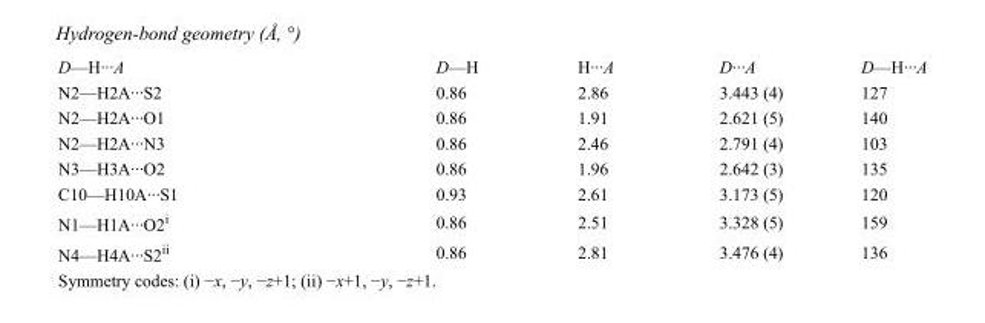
<table><tbody><tr><td>D—H···A</td><td>D—H</td><td>H···A</td><td>D···A</td><td>D—H···A</td></tr><tr><td>N2—H2A···S2</td><td>0.86</td><td>2.86</td><td>3.443 (4)</td><td>127</td></tr><tr><td>N2—H2A···O1</td><td>0.86</td><td>1.91</td><td>2.621 (5)</td><td>140</td></tr><tr><td>N2—H2A···N3</td><td>0.86</td><td>2.46</td><td>2.791 (4)</td><td>103</td></tr><tr><td>N3—H3A···O2</td><td>0.86</td><td>1.96</td><td>2.642 (3)</td><td>135</td></tr><tr><td>C10—H10A···S1</td><td>0.93</td><td>2.61</td><td>3.173 (5)</td><td>120</td></tr><tr><td>N1—H1A···O2<sup>i</sup></td><td>0.86</td><td>2.51</td><td>3.328 (5)</td><td>159</td></tr><tr><td>N4—H4A···S2<sup>ii</sup></td><td>0.86</td><td>2.81</td><td>3.476 (4)</td><td>136</td></tr></tbody></table>